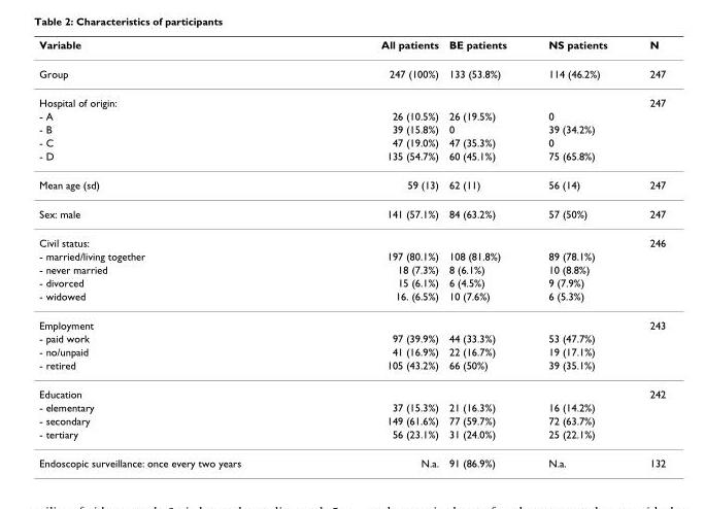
<table><thead><tr><td>Variable</td><td>All patients</td><td>BE patients</td><td>NS patients</td><td>N</td></tr></thead><tbody><tr><td>Group</td><td>247 (100%)</td><td>133 (53.8%)</td><td>114 (46.2%)</td><td>247</td></tr><tr><td>Hospital of origin:</td><td></td><td></td><td></td><td>247</td></tr><tr><td>- A</td><td>26 (10.5%)</td><td>26 (19.5%)</td><td>0</td><td></td></tr><tr><td>- B</td><td>39 (15.8%)</td><td>0</td><td>39 (34.2%)</td><td></td></tr><tr><td>- C</td><td>47 (19.0%)</td><td>47 (35.3%)</td><td>0</td><td></td></tr><tr><td>- D</td><td>135 (54.7%)</td><td>60 (45.1%)</td><td>75 (65.8%)</td><td></td></tr><tr><td>Mean age (sd)</td><td>59 (13)</td><td>62 (11)</td><td>56 (14)</td><td>247</td></tr><tr><td>Sex: male</td><td>141 (57.1%)</td><td>84 (63.2%)</td><td>57 (50%)</td><td>247</td></tr><tr><td>Civil status:</td><td></td><td></td><td></td><td>246</td></tr><tr><td>- married/living together</td><td>197 (80.1%)</td><td>108 (81.8%)</td><td>89 (78.1%)</td><td></td></tr><tr><td>- never married</td><td>18 (7.3%)</td><td>8 (6.1%)</td><td>10 (8.8%)</td><td></td></tr><tr><td>- divorced</td><td>15 (6.1%)</td><td>6 (4.5%)</td><td>9 (7.9%)</td><td></td></tr><tr><td>- widowed</td><td>16. (6.5%)</td><td>10 (7.6%)</td><td>6 (5.3%)</td><td></td></tr><tr><td>Employment</td><td></td><td></td><td></td><td>243</td></tr><tr><td>- paid work</td><td>97 (39.9%)</td><td>44 (33.3%)</td><td>53 (47.7%)</td><td></td></tr><tr><td>- no/unpaid</td><td>41 (16.9%)</td><td>22 (16.7%)</td><td>19 (17.1%)</td><td></td></tr><tr><td>- retired</td><td>105 (43.2%)</td><td>66 (50%)</td><td>39 (35.1%)</td><td></td></tr><tr><td>Education</td><td></td><td></td><td></td><td>242</td></tr><tr><td>- elementary</td><td>37 (15.3%)</td><td>21 (16.3%)</td><td>16 (14.2%)</td><td></td></tr><tr><td>- secondary</td><td>149 (61.6%)</td><td>77 (59.7%)</td><td>72 (63.7%)</td><td></td></tr><tr><td>- tertiary</td><td>56 (23.1%)</td><td>31 (24.0%)</td><td>25 (22.1%)</td><td></td></tr><tr><td>Endoscopic surveillance: once every two years</td><td>N.a.</td><td>91 (86.9%)</td><td>N.a.</td><td>132</td></tr></tbody></table>